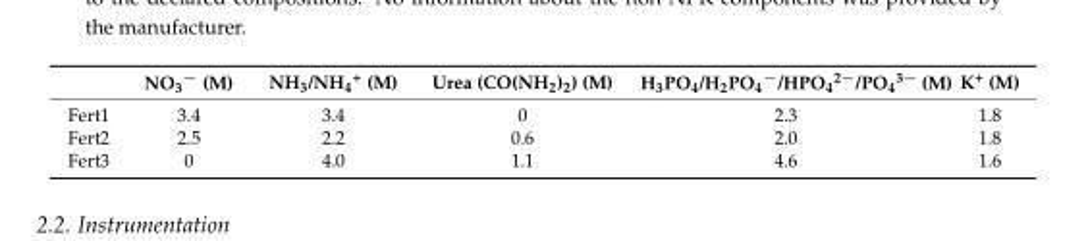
<table><thead><tr><td></td><td>NO<sub>3</sub><sup>−</sup> (M)</td><td>NH<sub>3</sub>/NH<sub>4</sub><sup>+</sup> (M)</td><td>Urea (CO(NH<sub>2</sub>)<sub>2</sub>) (M)</td><td>H<sub>3</sub>PO<sub>4</sub>/H<sub>2</sub>PO<sub>4</sub><sup>−</sup>/HPO<sub>4</sub><sup>2−</sup>/PO<sub>4</sub><sup>3−</sup> (M)</td><td>K<sup>+</sup> (M)</td></tr></thead><tbody><tr><td>Fert1</td><td>3.4</td><td>3.4</td><td>0</td><td>2.3</td><td>1.8</td></tr><tr><td>Fert2</td><td>2.5</td><td>2.2</td><td>0.6</td><td>2.0</td><td>1.8</td></tr><tr><td>Fert3</td><td>0</td><td>4.0</td><td>1.1</td><td>4.6</td><td>1.6</td></tr></tbody></table>